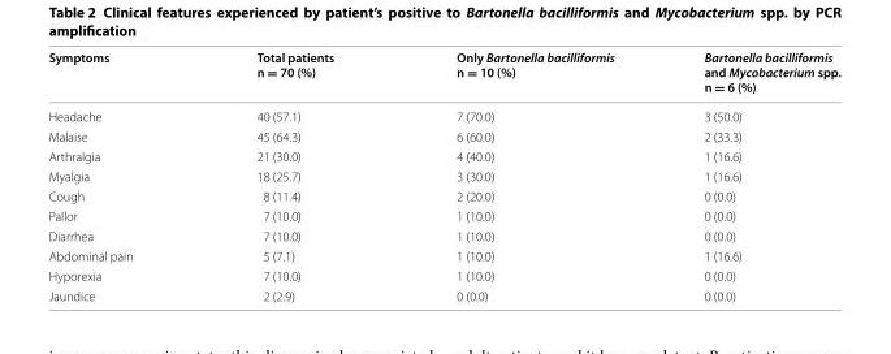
<table><thead><tr><td>Symptoms</td><td>Total patients n = 70 (%)</td><td>Only Bartonella bacilliformis n = 10 (%)</td><td>Bartonella bacilliformis and Mycobacterium spp. n = 6 (%)</td></tr></thead><tbody><tr><td>Headache</td><td>40 (57.1)</td><td>7 (70.0)</td><td>3 (50.0)</td></tr><tr><td>Malaise</td><td>45 (64.3)</td><td>6 (60.0)</td><td>2 (33.3)</td></tr><tr><td>Arthralgia</td><td>21 (30.0)</td><td>4 (40.0)</td><td>1 (16.6)</td></tr><tr><td>Myalgia</td><td>18 (25.7)</td><td>3 (30.0)</td><td>1 (16.6)</td></tr><tr><td>Cough</td><td>8 (11.4)</td><td>2 (20.0)</td><td>0 (0.0)</td></tr><tr><td>Pallor</td><td>7 (10.0)</td><td>1 (10.0)</td><td>0 (0.0)</td></tr><tr><td>Diarrhea</td><td>7 (10.0)</td><td>1 (10.0)</td><td>0 (0.0)</td></tr><tr><td>Abdominal pain</td><td>5 (7.1)</td><td>1 (10.0)</td><td>1 (16.6)</td></tr><tr><td>Hyporexia</td><td>7 (10.0)</td><td>1 (10.0)</td><td>0 (0.0)</td></tr><tr><td>Jaundice</td><td>2 (2.9)</td><td>0 (0.0)</td><td>0 (0.0)</td></tr></tbody></table>